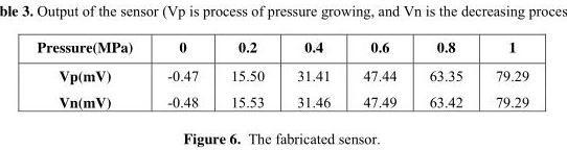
<table><thead><tr><td>Pressure(MPa)</td><td>0</td><td>0.2</td><td>0.4</td><td>0.6</td><td>0.8</td><td>1</td></tr></thead><tbody><tr><td>Vp(mV)</td><td>-0.47</td><td>15.50</td><td>31.41</td><td>47.44</td><td>63.35</td><td>79.29</td></tr><tr><td>Vn(mV)</td><td>-0.48</td><td>15.53</td><td>31.46</td><td>47.49</td><td>63.42</td><td>79.29</td></tr></tbody></table>